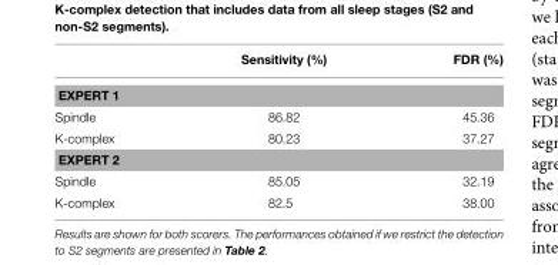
<table><thead><tr><td></td><td>Sensitivity (%)</td><td>FDR (%)</td></tr></thead><tbody><tr><td colspan="3">EXPERT 1</td></tr><tr><td>Spindle</td><td>86.82</td><td>45.36</td></tr><tr><td>K-complex</td><td>80.23</td><td>37.27</td></tr><tr><td colspan="3">EXPERT 2</td></tr><tr><td>Spindle</td><td>85.05</td><td>32.19</td></tr><tr><td>K-complex</td><td>82.5</td><td>38.00</td></tr></tbody></table>